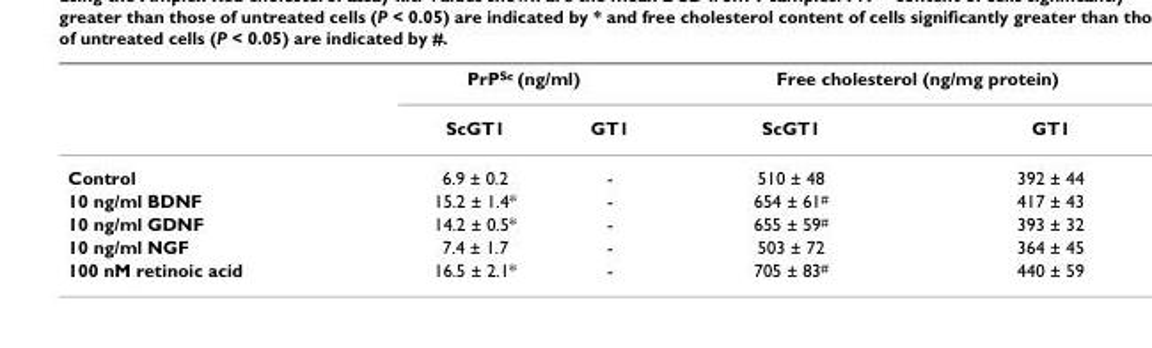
<table><thead><tr><td rowspan="2"></td><td colspan="2">PrP<sup>Sc</sup> (ng/ml)</td><td colspan="2">Free cholesterol (ng/mg protein)</td></tr><tr><td>ScGT1</td><td>GT1</td><td>ScGT1</td><td>GT1</td></tr></thead><tbody><tr><td>Control</td><td>6.9 ± 0.2</td><td>-</td><td>510 ± 48</td><td>392 ± 44</td></tr><tr><td>10 ng/ml BDNF</td><td>15.2 ± 1.4*</td><td>-</td><td>654 ± 61<sup>#</sup></td><td>417 ± 43</td></tr><tr><td>10 ng/ml GDNF</td><td>14.2 ± 0.5*</td><td>-</td><td>655 ± 59<sup>#</sup></td><td>393 ± 32</td></tr><tr><td>10 ng/ml NGF</td><td>7.4 ± 1.7</td><td>-</td><td>503 ± 72</td><td>364 ± 45</td></tr><tr><td>100 nM retinoic acid</td><td>16.5 ± 2.1*</td><td>-</td><td>705 ± 83<sup>#</sup></td><td>440 ± 59</td></tr></tbody></table>